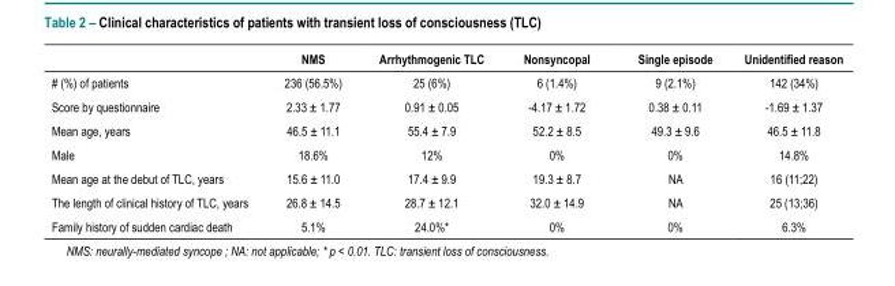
<table><thead><tr><td></td><td>NMS</td><td>Arrhythmogenic TLC</td><td>Nonsyncopal</td><td>Single episode</td><td>Unidentified reason</td></tr></thead><tbody><tr><td># (%) of patients</td><td>236 (56.5%)</td><td>25 (6%)</td><td>6 (1.4%)</td><td>9 (2.1%)</td><td>142 (34%)</td></tr><tr><td>Score by questionnaire</td><td>2.33 ± 1.77</td><td>0.91 ± 0.05</td><td>-4.17 ± 1.72</td><td>0.38 ± 0.11</td><td>-1.69 ± 1.37</td></tr><tr><td>Mean age, years</td><td>46.5 ± 11.1</td><td>55.4 ± 7.9</td><td>52.2 ± 8.5</td><td>49.3 ± 9.6</td><td>46.5 ± 11.8</td></tr><tr><td>Male</td><td>18.6%</td><td>12%</td><td>0%</td><td>0%</td><td>14.8%</td></tr><tr><td>Mean age at the debut of TLC, years</td><td>15.6 ± 11.0</td><td>17.4 ± 9.9</td><td>19.3 ± 8.7</td><td>NA</td><td>16 (11;22)</td></tr><tr><td>The length of clinical history of TLC, years</td><td>26.8 ± 14.5</td><td>28.7 ± 12.1</td><td>32.0 ± 14.9</td><td>NA</td><td>25 (13;36)</td></tr><tr><td>Family history of sudden cardiac death</td><td>5.1%</td><td>24.0%*</td><td>0%</td><td>0%</td><td>6.3%</td></tr></tbody></table>